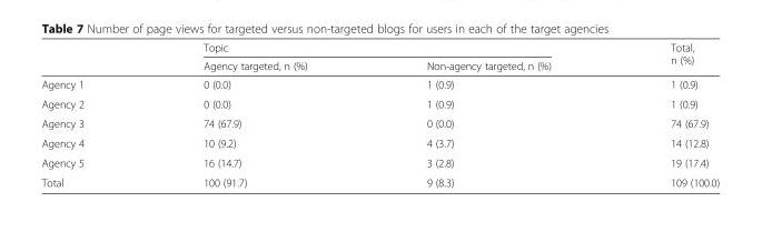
<table><thead><tr><td rowspan="2"></td><td colspan="2">Topic</td><td rowspan="2">Total, n (%)</td></tr><tr><td>Agency targeted, n (%)</td><td>Non-agency targeted, n (%)</td></tr></thead><tbody><tr><td>Agency 1</td><td>0 (0.0)</td><td>1 (0.9)</td><td>1 (0.9)</td></tr><tr><td>Agency 2</td><td>0 (0.0)</td><td>1 (0.9)</td><td>1 (0.9)</td></tr><tr><td>Agency 3</td><td>74 (67.9)</td><td>0 (0.0)</td><td>74 (67.9)</td></tr><tr><td>Agency 4</td><td>10 (9.2)</td><td>4 (3.7)</td><td>14 (12.8)</td></tr><tr><td>Agency 5</td><td>16 (14.7)</td><td>3 (2.8)</td><td>19 (17.4)</td></tr><tr><td>Total</td><td>100 (91.7)</td><td>9 (8.3)</td><td>109 (100.0)</td></tr></tbody></table>